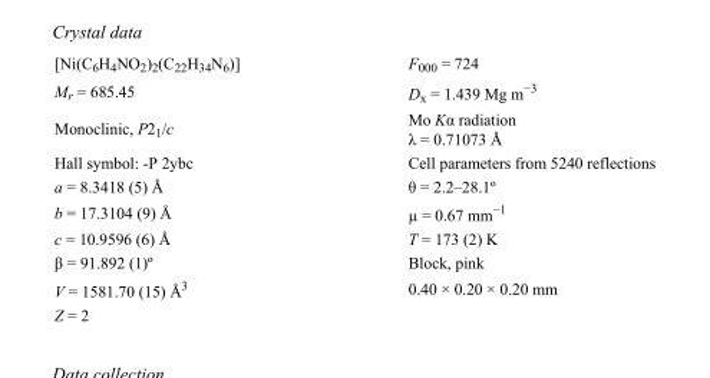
<table><tbody><tr><td>[Ni(C<sub>6</sub>H<sub>4</sub>NO<sub>2</sub>)<sub>2</sub>(C<sub>22</sub>H<sub>34</sub>N<sub>6</sub>)]</td><td>F<sub>000</sub> = 724</td></tr><tr><td>M<sub>r</sub> = 685.45</td><td>D<sub>x</sub> = 1.439 Mg m<sup>−3</sup></td></tr><tr><td>Monoclinic, P2<sub>1</sub>/c</td><td>Mo Kα radiation λ = 0.71073 Å</td></tr><tr><td>Hall symbol: -P 2ybc</td><td>Cell parameters from 5240 reflections</td></tr><tr><td>a = 8.3418 (5) Å</td><td>θ = 2.2–28.1º</td></tr><tr><td>b = 17.3104 (9) Å</td><td>µ = 0.67 mm<sup>−1</sup></td></tr><tr><td>c = 10.9596 (6) Å</td><td>T = 173 (2) K</td></tr><tr><td>β = 91.892 (1)º</td><td>Block, pink</td></tr><tr><td>V = 1581.70 (15) Å<sup>3</sup></td><td>0.40 × 0.20 × 0.20 mm</td></tr><tr><td>Z = 2</td><td></td></tr></tbody></table>